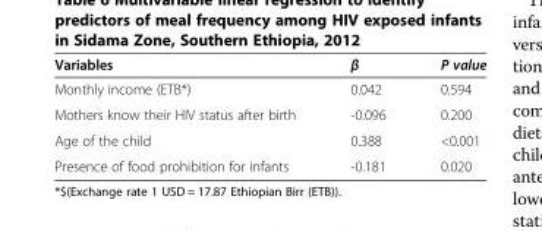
<table><thead><tr><td>Variables</td><td>β</td><td>P value</td></tr></thead><tbody><tr><td>Monthly income (ETB*)</td><td>0.042</td><td>0.594</td></tr><tr><td>Mothers know their HIV status after birth</td><td>-0.096</td><td>0.200</td></tr><tr><td>Age of the child</td><td>0.388</td><td>&lt;0.001</td></tr><tr><td>Presence of food prohibition for infants</td><td>-0.181</td><td>0.020</td></tr></tbody></table>